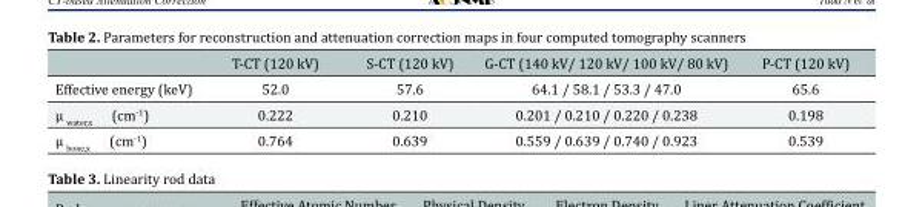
<table><thead><tr><td></td><td>T-CT (120 kV)</td><td>S-CT (120 kV)</td><td>G-CT (140 kV/ 120 kV/ 100 kV/ 80 kV)</td><td>P-CT (120 kV)</td></tr></thead><tbody><tr><td>Effective energy (keV)</td><td>52.0</td><td>57.6</td><td>64.1 / 58.1 / 53.3 / 47.0</td><td>65.6</td></tr><tr><td>μ <sub>water,x</sub> (cm<sup>-1</sup>)</td><td>0.222</td><td>0.210</td><td>0.201 / 0.210 / 0.220 / 0.238</td><td>0.198</td></tr><tr><td>μ <sub>bone,x</sub> (cm<sup>-1</sup>)</td><td>0.764</td><td>0.639</td><td>0.559 / 0.639 / 0.740 / 0.923</td><td>0.539</td></tr></tbody></table>